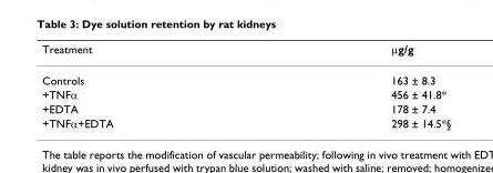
<table><thead><tr><td>Treatment</td><td>µg/g</td></tr></thead><tbody><tr><td>Controls</td><td>163 ± 8.3</td></tr><tr><td>+TNFα</td><td>456 ± 41.8*</td></tr><tr><td>+EDTA</td><td>178 ± 7.4</td></tr><tr><td>+TNFα+EDTA</td><td>298 ± 14.5*§</td></tr></tbody></table>